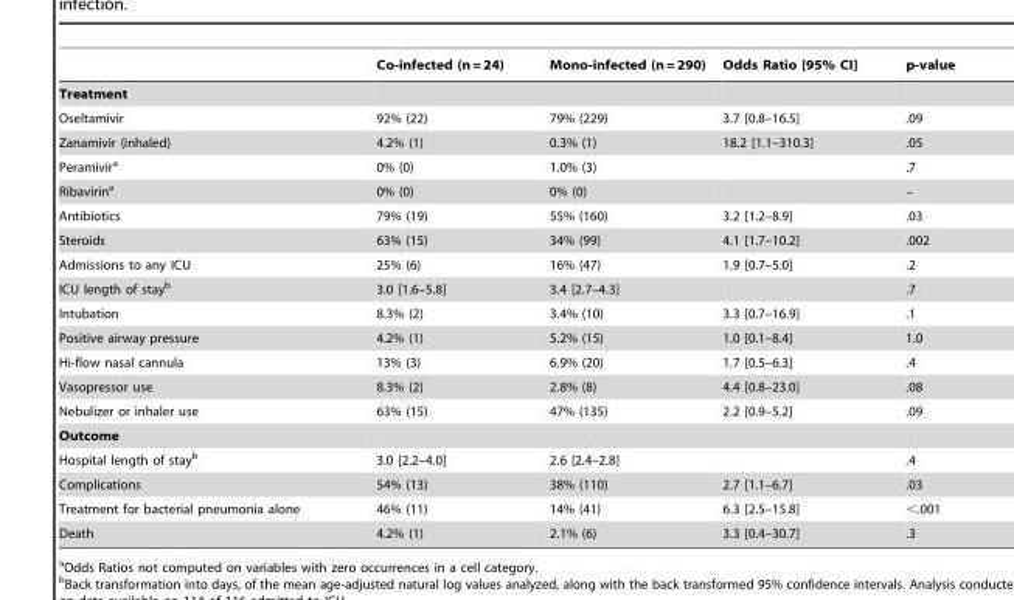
<table><thead><tr><td></td><td>Co-infected (n = 24)</td><td>Mono-infected (n = 290)</td><td>Odds Ratio [95% CI]</td><td>p-value</td></tr></thead><tbody><tr><td colspan="5">Treatment</td></tr><tr><td>Oseltamivir</td><td>92% (22)</td><td>79% (229)</td><td>3.7 [0.8–16.5]</td><td>.09</td></tr><tr><td>Zanamivir (inhaled)</td><td>4.2% (1)</td><td>0.3% (1)</td><td>18.2 [1.1–310.3]</td><td>.05</td></tr><tr><td>Peramivir<sup>a</sup></td><td>0% (0)</td><td>1.0% (3)</td><td></td><td>.7</td></tr><tr><td>Ribavirin<sup>a</sup></td><td>0% (0)</td><td>0% (0)</td><td></td><td>–</td></tr><tr><td>Antibiotics</td><td>79% (19)</td><td>55% (160)</td><td>3.2 [1.2–8.9]</td><td>.03</td></tr><tr><td>Steroids</td><td>63% (15)</td><td>34% (99)</td><td>4.1 [1.7–10.2]</td><td>.002</td></tr><tr><td>Admissions to any ICU</td><td>25% (6)</td><td>16% (47)</td><td>1.9 [0.7–5.0]</td><td>.2</td></tr><tr><td>ICU length of stay<sup>b</sup></td><td>3.0 [1.6–5.8]</td><td>3.4 [2.7–4.3]</td><td></td><td>.7</td></tr><tr><td>Intubation</td><td>8.3% (2)</td><td>3.4% (10)</td><td>3.3 [0.7–16.9]</td><td>.1</td></tr><tr><td>Positive airway pressure</td><td>4.2% (1)</td><td>5.2% (15)</td><td>1.0 [0.1–8.4]</td><td>1.0</td></tr><tr><td>Hi-flow nasal cannula</td><td>13% (3)</td><td>6.9% (20)</td><td>1.7 [0.5–6.3]</td><td>.4</td></tr><tr><td>Vasopressor use</td><td>8.3% (2)</td><td>2.8% (8)</td><td>4.4 [0.8–23.0]</td><td>.08</td></tr><tr><td>Nebulizer or inhaler use</td><td>63% (15)</td><td>47% (135)</td><td>2.2 [0.9–5.2]</td><td>.09</td></tr><tr><td colspan="5">Outcome</td></tr><tr><td>Hospital length of stay<sup>b</sup></td><td>3.0 [2.2–4.0]</td><td>2.6 [2.4–2.8]</td><td></td><td>.4</td></tr><tr><td>Complications</td><td>54% (13)</td><td>38% (110)</td><td>2.7 [1.1–6.7]</td><td>.03</td></tr><tr><td>Treatment for bacterial pneumonia alone</td><td>46% (11)</td><td>14% (41)</td><td>6.3 [2.5–15.8]</td><td>&lt;.001</td></tr><tr><td>Death</td><td>4.2% (1)</td><td>2.1% (6)</td><td>3.3 [0.4–30.7]</td><td>.3</td></tr></tbody></table>